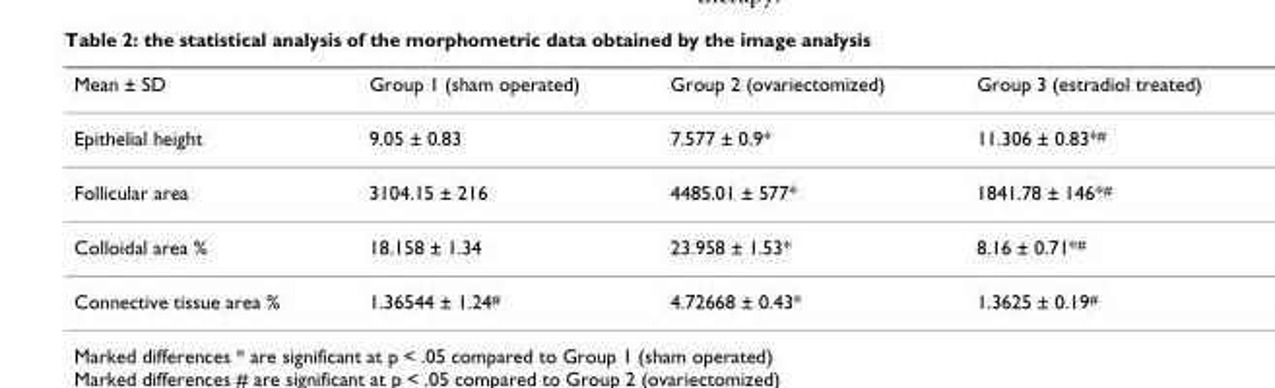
<table><thead><tr><td>Mean ± SD</td><td>Group 1 (sham operated)</td><td>Group 2 (ovariectomized)</td><td>Group 3 (estradiol treated)</td></tr></thead><tbody><tr><td>Epithelial height</td><td>9.05 ± 0.83</td><td>7.577 ± 0.9*</td><td>11.306 ± 0.83*<sup>#</sup></td></tr><tr><td>Follicular area</td><td>3104.15 ± 216</td><td>4485.01 ± 577*</td><td>1841.78 ± 146*<sup>#</sup></td></tr><tr><td>Colloidal area %</td><td>18.158 ± 1.34</td><td>23.958 ± 1.53*</td><td>8.16 ± 0.71*<sup>#</sup></td></tr><tr><td>Connective tissue area %</td><td>1.36544 ± 1.24<sup>#</sup></td><td>4.72668 ± 0.43*</td><td>1.3625 ± 0.19<sup>#</sup></td></tr></tbody></table>